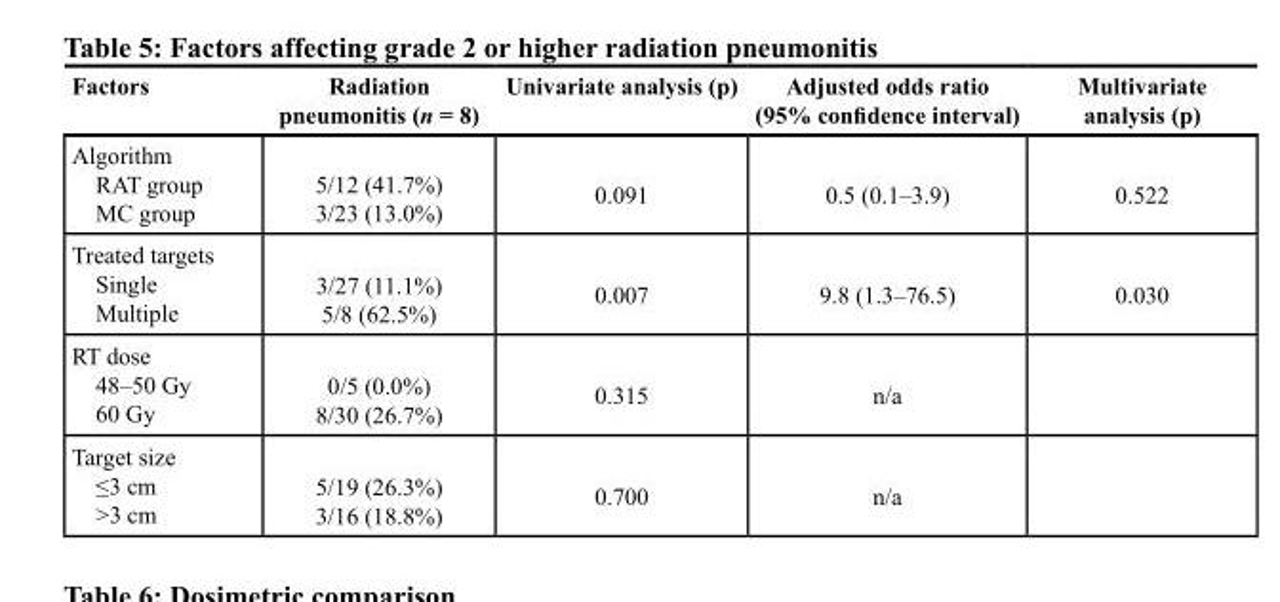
<table><thead><tr><td>Factors</td><td>Radiation pneumonitis (n = 8)</td><td>Univariate analysis (p)</td><td>Adjusted odds ratio (95% confidence interval)</td><td>Multivariate analysis (p)</td></tr></thead><tbody><tr><td>Algorithm RAT group MC group</td><td>5/12 (41.7%) 3/23 (13.0%)</td><td>0.091</td><td>0.5 (0.1–3.9)</td><td>0.522</td></tr><tr><td>Treated targets Single Multiple</td><td>3/27 (11.1%) 5/8 (62.5%)</td><td>0.007</td><td>9.8 (1.3–76.5)</td><td>0.030</td></tr><tr><td>RT dose 48–50 Gy 60 Gy</td><td>0/5 (0.0%) 8/30 (26.7%)</td><td>0.315</td><td>n/a</td><td></td></tr><tr><td>Target size ≤3 cm &gt;3 cm</td><td>5/19 (26.3%) 3/16 (18.8%)</td><td>0.700</td><td>n/a</td><td></td></tr></tbody></table>